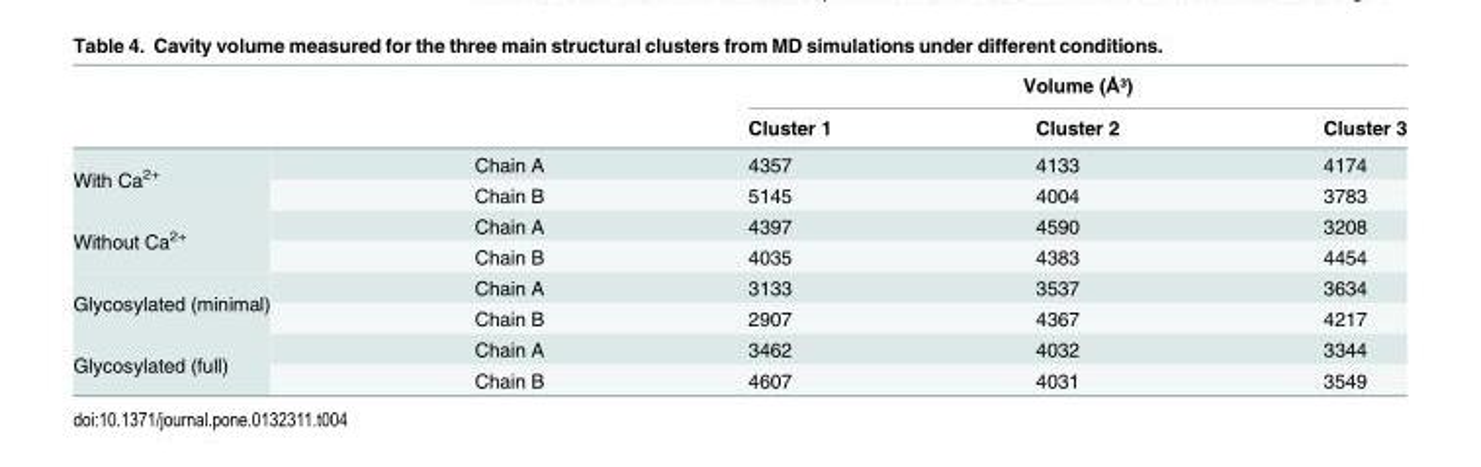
<table><thead><tr><td rowspan="2"></td><td rowspan="2"></td><td colspan="3">Volume (Å³)</td></tr><tr><td>Cluster 1</td><td>Cluster 2</td><td>Cluster 3</td></tr></thead><tbody><tr><td rowspan="2">With Ca<sup>2+</sup></td><td>Chain A</td><td>4357</td><td>4133</td><td>4174</td></tr><tr><td>Chain B</td><td>5145</td><td>4004</td><td>3783</td></tr><tr><td rowspan="2">Without Ca<sup>2+</sup></td><td>Chain A</td><td>4397</td><td>4590</td><td>3208</td></tr><tr><td>Chain B</td><td>4035</td><td>4383</td><td>4454</td></tr><tr><td rowspan="2">Glycosylated (minimal)</td><td>Chain A</td><td>3133</td><td>3537</td><td>3634</td></tr><tr><td>Chain B</td><td>2907</td><td>4367</td><td>4217</td></tr><tr><td rowspan="2">Glycosylated (full)</td><td>Chain A</td><td>3462</td><td>4032</td><td>3344</td></tr><tr><td>Chain B</td><td>4607</td><td>4031</td><td>3549</td></tr></tbody></table>